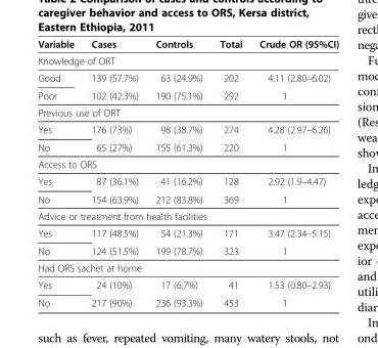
<table><thead><tr><td>Variable</td><td>Cases</td><td>Controls</td><td>Total</td><td>Crude OR (95%CI)</td></tr></thead><tbody><tr><td colspan="5">Knowledge of ORT</td></tr><tr><td>Good</td><td>139 (57.7%)</td><td>63 (24.9%)</td><td>202</td><td>4.11 (2.80–6.02)</td></tr><tr><td>Poor</td><td>102 (42.3%)</td><td>190 (75.1%)</td><td>292</td><td>1</td></tr><tr><td colspan="5">Previous use of ORT</td></tr><tr><td>Yes</td><td>176 (73%)</td><td>98 (38.7%)</td><td>274</td><td>4.28 (2.97–6.26)</td></tr><tr><td>No</td><td>65 (27%)</td><td>155 (61.3%)</td><td>220</td><td>1</td></tr><tr><td colspan="5">Access to ORS</td></tr><tr><td>Yes</td><td>87 (36.1%)</td><td>41 (16.2%)</td><td>128</td><td>2.92 (1.9–4.47)</td></tr><tr><td>No</td><td>154 (63.9%)</td><td>212 (83.8%)</td><td>369</td><td>1</td></tr><tr><td colspan="5">Advice or treatment from health facilities</td></tr><tr><td>Yes</td><td>117 (48.5%)</td><td>54 (21.3%)</td><td>171</td><td>3.47 (2.34–5.15)</td></tr><tr><td>No</td><td>124 (51.5%)</td><td>199 (78.7%)</td><td>323</td><td>1</td></tr><tr><td colspan="5">Had ORS sachet at home</td></tr><tr><td>Yes</td><td>24 (10%)</td><td>17 (6.7%)</td><td>41</td><td>1.53 (0.80–2.93)</td></tr><tr><td>No</td><td>217 (90%)</td><td>236 (93.3%)</td><td>453</td><td>1</td></tr></tbody></table>